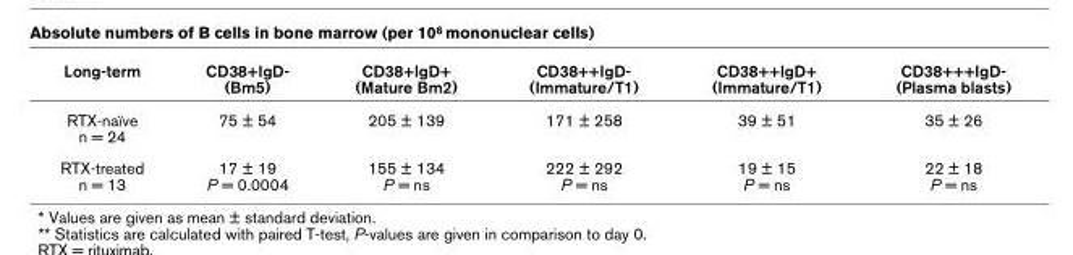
<table><thead><tr><td>Long-term</td><td>CD38+IgD- (Bm5)</td><td>CD38+IgD+ (Mature Bm2)</td><td>CD38++IgD- (Immature/T1)</td><td>CD38++IgD+ (Immature/T1)</td><td>CD38+++IgD- (Plasma blasts)</td></tr></thead><tbody><tr><td>RTX-naïve n = 24</td><td>75 ± 54</td><td>205 ± 139</td><td>171 ± 258</td><td>39 ± 51</td><td>35 ± 26</td></tr><tr><td>RTX-treated n = 13</td><td>17 ± 19 P = 0.0004</td><td>155 ± 134 P = ns</td><td>222 ± 292 P = ns</td><td>19 ± 15 P = ns</td><td>22 ± 18 P = ns</td></tr></tbody></table>